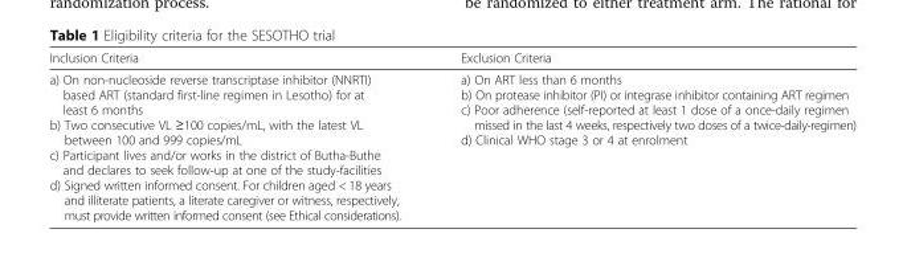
<table><thead><tr><td>Inclusion Criteria</td><td>Exclusion Criteria</td></tr></thead><tbody><tr><td>a) On non-nucleoside reverse transcriptase inhibitor (NNRTI) based ART (standard first-line regimen in Lesotho) for at least 6 months b) Two consecutive VL ≥100 copies/mL, with the latest VL between 100 and 999 copies/mL c) Participant lives and/or works in the district of Butha-Buthe and declares to seek follow-up at one of the study-facilities d) Signed written informed consent. For children aged &lt; 18 years and illiterate patients, a literate caregiver or witness, respectively, must provide written informed consent (see Ethical considerations).</td><td>a) On ART less than 6 months b) On protease inhibitor (PI) or integrase inhibitor containing ART regimen c) Poor adherence (self-reported at least 1 dose of a once-daily regimen missed in the last 4 weeks, respectively two doses of a twice-daily-regimen) d) Clinical WHO stage 3 or 4 at enrolment</td></tr></tbody></table>